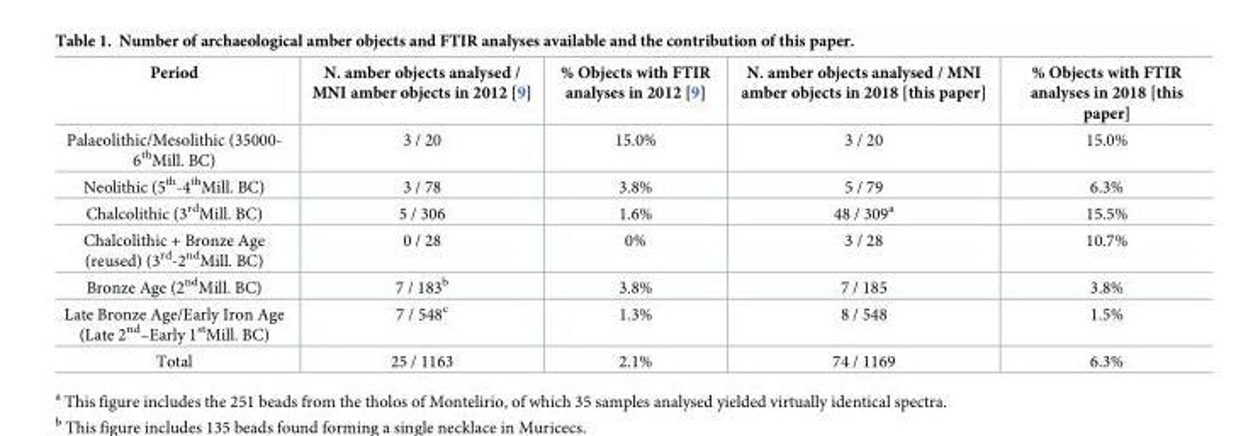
<table><thead><tr><td>Period</td><td>N. amber objects analysed / MNI amber objects in 2012 [9]</td><td>% Objects with FTIR analyses in 2012 [9]</td><td>N. amber objects analysed / MNI amber objects in 2018 [this paper]</td><td>% Objects with FTIR analyses in 2018 [this paper]</td></tr></thead><tbody><tr><td>Palaeolithic/Mesolithic (35000- 6<sup>th</sup>Mill. BC)</td><td>3 / 20</td><td>15.0%</td><td>3 / 20</td><td>15.0%</td></tr><tr><td>Neolithic (5<sup>th</sup>-4<sup>th</sup>Mill. BC)</td><td>3 / 78</td><td>3.8%</td><td>5 / 79</td><td>6.3%</td></tr><tr><td>Chalcolithic (3<sup>rd</sup>Mill. BC)</td><td>5 / 306</td><td>1.6%</td><td>48 / 309<sup>a</sup></td><td>15.5%</td></tr><tr><td>Chalcolithic + Bronze Age (reused) (3<sup>rd</sup>-2<sup>nd</sup>Mill. BC)</td><td>0 / 28</td><td>0%</td><td>3 / 28</td><td>10.7%</td></tr><tr><td>Bronze Age (2<sup>nd</sup>Mill. BC)</td><td>7 / 183<sup>b</sup></td><td>3.8%</td><td>7 / 185</td><td>3.8%</td></tr><tr><td>Late Bronze Age/Early Iron Age (Late 2<sup>nd</sup>–Early 1<sup>st</sup>Mill. BC)</td><td>7 / 548<sup>c</sup></td><td>1.3%</td><td>8 / 548</td><td>1.5%</td></tr><tr><td>Total</td><td>25 / 1163</td><td>2.1%</td><td>74 / 1169</td><td>6.3%</td></tr></tbody></table>